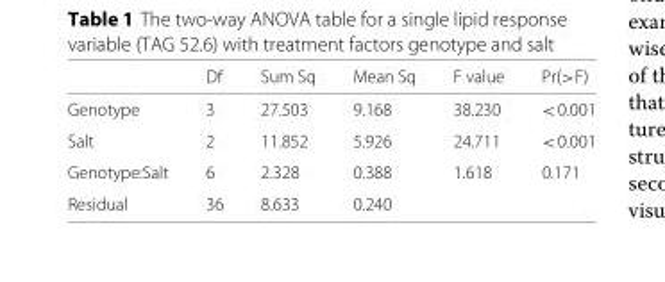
<table><thead><tr><td></td><td>Df</td><td>Sum Sq</td><td>Mean Sq</td><td>F value</td><td>Pr(&gt;F)</td></tr></thead><tbody><tr><td>Genotype</td><td>3</td><td>27.503</td><td>9.168</td><td>38.230</td><td>&lt;0.001</td></tr><tr><td>Salt</td><td>2</td><td>11.852</td><td>5.926</td><td>24.711</td><td>&lt;0.001</td></tr><tr><td>Genotype:Salt</td><td>6</td><td>2.328</td><td>0.388</td><td>1.618</td><td>0.171</td></tr><tr><td>Residual</td><td>36</td><td>8.633</td><td>0.240</td><td></td><td></td></tr></tbody></table>